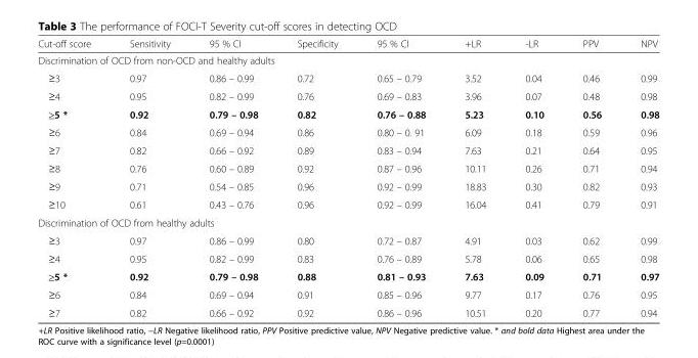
<table><thead><tr><td>Cut-off score</td><td>Sensitivity</td><td>95 % CI</td><td>Specificity</td><td>95 % CI</td><td>+LR</td><td>-LR</td><td>PPV</td><td>NPV</td></tr></thead><tbody><tr><td colspan="9">Discrimination of OCD from non-OCD and healthy adults</td></tr><tr><td>≥3</td><td>0.97</td><td>0.86 – 0.99</td><td>0.72</td><td>0.65 – 0.79</td><td>3.52</td><td>0.04</td><td>0.46</td><td>0.99</td></tr><tr><td>≥4</td><td>0.95</td><td>0.82 – 0.99</td><td>0.76</td><td>0.69 – 0.83</td><td>3.96</td><td>0.07</td><td>0.48</td><td>0.98</td></tr><tr><td>≥5 *</td><td>0.92</td><td>0.79 – 0.98</td><td>0.82</td><td>0.76 – 0.88</td><td>5.23</td><td>0.10</td><td>0.56</td><td>0.98</td></tr><tr><td>≥6</td><td>0.84</td><td>0.69 – 0.94</td><td>0.86</td><td>0.80 – 0. 91</td><td>6.09</td><td>0.18</td><td>0.59</td><td>0.96</td></tr><tr><td>≥7</td><td>0.82</td><td>0.66 – 0.92</td><td>0.89</td><td>0.83 – 0.94</td><td>7.63</td><td>0.21</td><td>0.64</td><td>0.95</td></tr><tr><td>≥8</td><td>0.76</td><td>0.60 – 0.89</td><td>0.92</td><td>0.87 – 0.96</td><td>10.11</td><td>0.26</td><td>0.71</td><td>0.94</td></tr><tr><td>≥9</td><td>0.71</td><td>0.54 – 0.85</td><td>0.96</td><td>0.92 – 0.99</td><td>18.83</td><td>0.30</td><td>0.82</td><td>0.93</td></tr><tr><td>≥10</td><td>0.61</td><td>0.43 – 0.76</td><td>0.96</td><td>0.92 – 0.99</td><td>16.04</td><td>0.41</td><td>0.79</td><td>0.91</td></tr><tr><td colspan="9">Discrimination of OCD from healthy adults</td></tr><tr><td>≥3</td><td>0.97</td><td>0.86 – 0.99</td><td>0.80</td><td>0.72 – 0.87</td><td>4.91</td><td>0.03</td><td>0.62</td><td>0.99</td></tr><tr><td>≥4</td><td>0.95</td><td>0.82 – 0.99</td><td>0.83</td><td>0.76 – 0.89</td><td>5.78</td><td>0.06</td><td>0.65</td><td>0.98</td></tr><tr><td>≥5 *</td><td>0.92</td><td>0.79 – 0.98</td><td>0.88</td><td>0.81 – 0.93</td><td>7.63</td><td>0.09</td><td>0.71</td><td>0.97</td></tr><tr><td>≥6</td><td>0.84</td><td>0.69 – 0.94</td><td>0.91</td><td>0.85 – 0.96</td><td>9.77</td><td>0.17</td><td>0.76</td><td>0.95</td></tr><tr><td>≥7</td><td>0.82</td><td>0.66 – 0.92</td><td>0.92</td><td>0.86 – 0.96</td><td>10.51</td><td>0.20</td><td>0.77</td><td>0.94</td></tr></tbody></table>